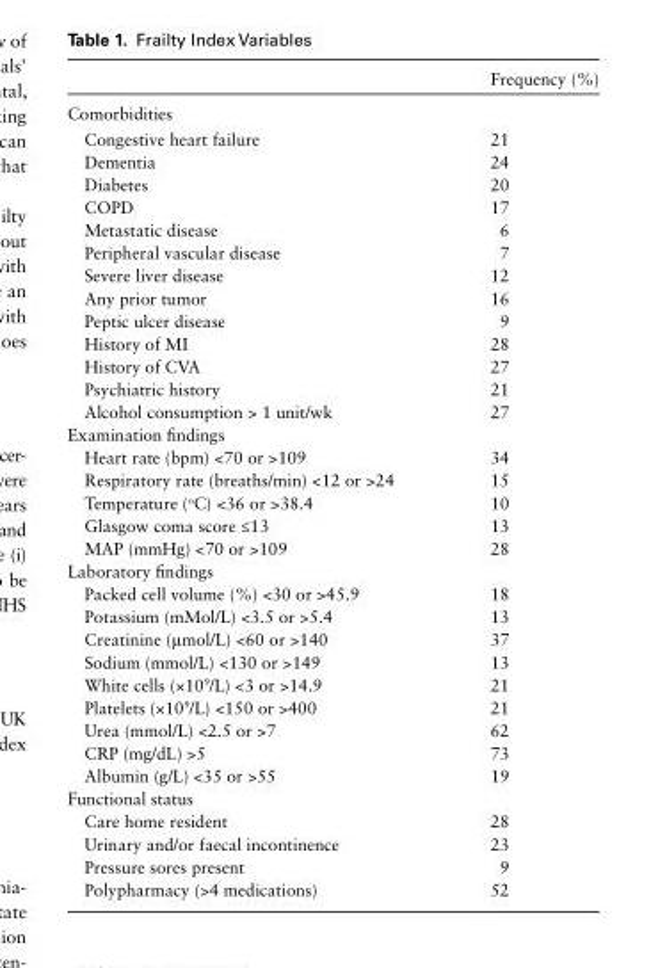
<table><thead><tr><td></td><td>Frequency (%)</td></tr><tr><td colspan="2">Comorbidities</td></tr></thead><tbody><tr><td>Congestive heart failure</td><td>21</td></tr><tr><td>Dementia</td><td>24</td></tr><tr><td>Diabetes</td><td>20</td></tr><tr><td>COPD</td><td>17</td></tr><tr><td>Metastatic disease</td><td>6</td></tr><tr><td>Peripheral vascular disease</td><td>7</td></tr><tr><td>Severe liver disease Any prior tumor</td><td>12 16</td></tr><tr><td>Peptic ulcer disease</td><td>9</td></tr><tr><td>History of MI</td><td>28</td></tr><tr><td>History of CVA</td><td>27</td></tr><tr><td>Psychiatric history</td><td>21</td></tr><tr><td>Alcohol consumption &gt; 1 unit/wk</td><td>27</td></tr><tr><td colspan="2">Examination findings</td></tr><tr><td>Heart rate (bpm) &lt;70 or &gt;109</td><td>34</td></tr><tr><td>Respiratory rate (breaths/min) &lt;12 or &gt;24</td><td>15</td></tr><tr><td>Temperature (<sup>o</sup>C) &lt;36 or &gt;38.4</td><td>10</td></tr><tr><td>Glasgow coma score ≤13</td><td>13</td></tr><tr><td>MAP (mmHg) &lt;70 or &gt;109</td><td>28</td></tr><tr><td colspan="2">Laboratory findings</td></tr><tr><td>Packed cell volume (%) &lt;30 or &gt;45.9</td><td>18</td></tr><tr><td>Potassium (mMol/L) &lt;3.5 or &gt;5.4</td><td>13</td></tr><tr><td>Creatinine (μmol/L) &lt;60 or &gt;140</td><td>37</td></tr><tr><td>Sodium (mmol/L) &lt;130 or &gt;149</td><td>13</td></tr><tr><td>White cells (×10<sup>9</sup>/L) &lt;3 or &gt;14.9</td><td>21</td></tr><tr><td>Platelets (×10<sup>9</sup>/L) &lt;150 or &gt;400</td><td>21</td></tr><tr><td>Urea (mmol/L) &lt;2.5 or &gt;7</td><td>62</td></tr><tr><td>CRP (mg/dL) &gt;5</td><td>73</td></tr><tr><td>Albumin (g/L) &lt;35 or &gt;55</td><td>19</td></tr><tr><td colspan="2">Functional status</td></tr><tr><td>Care home resident</td><td>28</td></tr><tr><td>Urinary and/or faecal incontinence</td><td>23</td></tr><tr><td>Pressure sores present</td><td>9</td></tr><tr><td>Polypharmacy (&gt;4 medications)</td><td>52</td></tr></tbody></table>